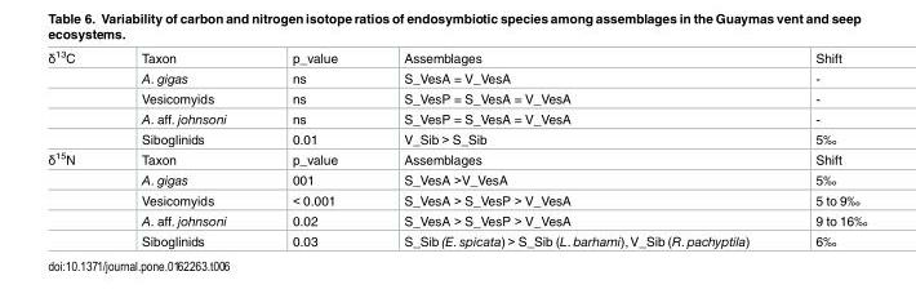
<table><tbody><tr><td rowspan="5">δ<sup>13</sup>C</td><td>Taxon</td><td>p_value</td><td>Assemblages</td><td>Shift</td></tr><tr><td>A. gigas</td><td>ns</td><td>S_VesA = V_VesA</td><td>-</td></tr><tr><td>Vesicomyids</td><td>ns</td><td>S_VesP = S_VesA = V_VesA</td><td>-</td></tr><tr><td>A. aff. johnsoni</td><td>ns</td><td>S_VesP = S_VesA = V_VesA</td><td>-</td></tr><tr><td>Siboglinids</td><td>0.01</td><td>V_Sib &gt; S_Sib</td><td>5‰</td></tr><tr><td rowspan="5">δ<sup>15</sup>N</td><td>Taxon</td><td>p_value</td><td>Assemblages</td><td>Shift</td></tr><tr><td>A. gigas</td><td>001</td><td>S_VesA &gt;V_VesA</td><td>5‰</td></tr><tr><td>Vesicomyids</td><td>&lt; 0.001</td><td>S_VesA &gt; S_VesP &gt; V_VesA</td><td>5 to 9‰</td></tr><tr><td>A. aff. johnsoni</td><td>0.02</td><td>S_VesA &gt; S_VesP &gt; V_VesA</td><td>9 to 16‰</td></tr><tr><td>Siboglinids</td><td>0.03</td><td>S_Sib (E. spicata) &gt; S_Sib (L. barhami),V_Sib (R. pachyptila)</td><td>6‰</td></tr></tbody></table>